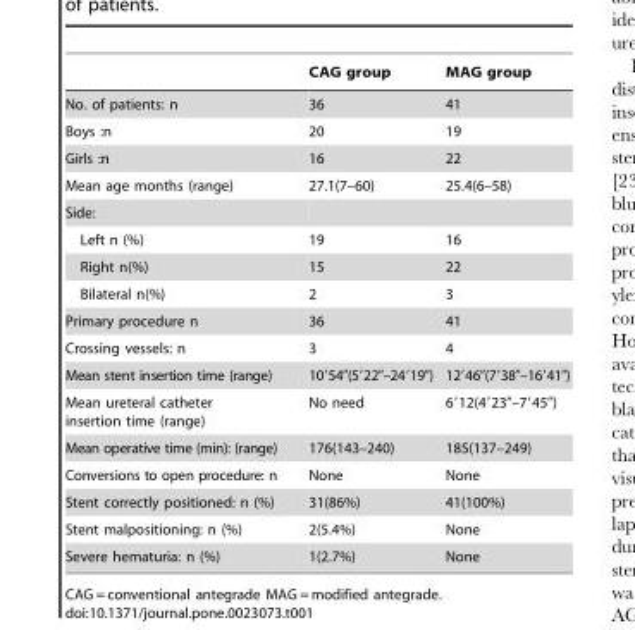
<table><thead><tr><td></td><td>CAG group</td><td>MAG group</td></tr></thead><tbody><tr><td>No. of patients: n</td><td>36</td><td>41</td></tr><tr><td>Boys :n</td><td>20</td><td>19</td></tr><tr><td>Girls :n</td><td>16</td><td>22</td></tr><tr><td>Mean age months (range)</td><td>27.1(7–60)</td><td>25.4(6–58)</td></tr><tr><td colspan="3">Side:</td></tr><tr><td>Left n (%)</td><td>19</td><td>16</td></tr><tr><td>Right n(%)</td><td>15</td><td>22</td></tr><tr><td>Bilateral n(%)</td><td>2</td><td>3</td></tr><tr><td>Primary procedure n</td><td>36</td><td>41</td></tr><tr><td>Crossing vessels: n</td><td>3</td><td>4</td></tr><tr><td>Mean stent insertion time (range)</td><td>10′54″(5′22″–24′19″)</td><td>12′46″(7′38″–16′41″)</td></tr><tr><td>Mean ureteral catheter insertion time (range)</td><td>No need</td><td>6′12(4′23″–7′45″)</td></tr><tr><td>Mean operative time (min): (range)</td><td>176(143–240)</td><td>185(137–249)</td></tr><tr><td>Conversions to open procedure: n</td><td>None</td><td>None</td></tr><tr><td>Stent correctly positioned: n (%)</td><td>31(86%)</td><td>41(100%)</td></tr><tr><td>Stent malpositioning: n (%)</td><td>2(5.4%)</td><td>None</td></tr><tr><td>Severe hematuria: n (%)</td><td>1(2.7%)</td><td>None</td></tr></tbody></table>